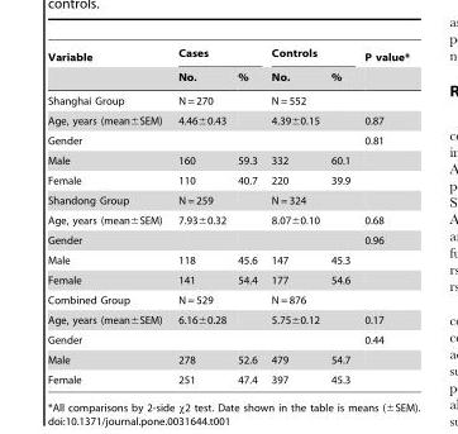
<table><thead><tr><td rowspan="2">Variable</td><td colspan="2">Cases</td><td colspan="2">Controls</td><td rowspan="2">P value*</td></tr><tr><td>No.</td><td>%</td><td>No.</td><td>%</td></tr></thead><tbody><tr><td>Shanghai Group</td><td>N = 270</td><td></td><td>N = 552</td><td></td><td></td></tr><tr><td>Age, years (mean±SEM)</td><td>4.46±0.43</td><td></td><td>4.39±0.15</td><td></td><td>0.87</td></tr><tr><td>Gender</td><td></td><td></td><td></td><td></td><td>0.81</td></tr><tr><td>Male</td><td>160</td><td>59.3</td><td>332</td><td>60.1</td><td></td></tr><tr><td>Female</td><td>110</td><td>40.7</td><td>220</td><td>39.9</td><td></td></tr><tr><td>Shandong Group</td><td>N = 259</td><td></td><td>N = 324</td><td></td><td></td></tr><tr><td>Age, years (mean±SEM)</td><td>7.93±0.32</td><td></td><td>8.07±0.10</td><td></td><td>0.68</td></tr><tr><td>Gender</td><td></td><td></td><td></td><td></td><td>0.96</td></tr><tr><td>Male</td><td>118</td><td>45.6</td><td>147</td><td>45.3</td><td></td></tr><tr><td>Female</td><td>141</td><td>54.4</td><td>177</td><td>54.6</td><td></td></tr><tr><td>Combined Group</td><td>N = 529</td><td></td><td>N = 876</td><td></td><td></td></tr><tr><td>Age, years (mean±SEM)</td><td>6.16±0.28</td><td></td><td>5.75±0.12</td><td></td><td>0.17</td></tr><tr><td>Gender</td><td></td><td></td><td></td><td></td><td>0.44</td></tr><tr><td>Male</td><td>278</td><td>52.6</td><td>479</td><td>54.7</td><td></td></tr><tr><td>Female</td><td>251</td><td>47.4</td><td>397</td><td>45.3</td><td></td></tr></tbody></table>